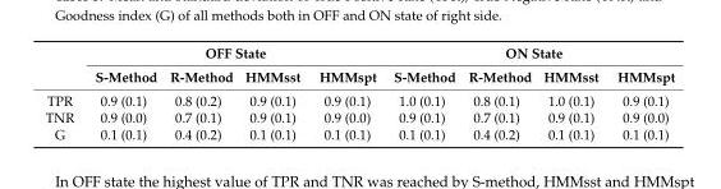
<table><thead><tr><td rowspan="2"></td><td colspan="4">OFF State</td><td colspan="4">ON State</td></tr><tr><td>S-Method</td><td>R-Method</td><td>HMMsst</td><td>HMMspt</td><td>S-Method</td><td>R-Method</td><td>HMMsst</td><td>HMMspt</td></tr></thead><tbody><tr><td>TPR</td><td>0.9 (0.1)</td><td>0.8 (0.2)</td><td>0.9 (0.1)</td><td>0.9 (0.1)</td><td>1.0 (0.1)</td><td>0.8 (0.1)</td><td>1.0 (0.1)</td><td>0.9 (0.1)</td></tr><tr><td>TNR</td><td>0.9 (0.0)</td><td>0.7 (0.1)</td><td>0.9 (0.1)</td><td>0.9 (0.0)</td><td>0.9 (0.1)</td><td>0.7 (0.1)</td><td>0.9 (0.1)</td><td>0.9 (0.0)</td></tr><tr><td>G</td><td>0.1 (0.1)</td><td>0.4 (0.2)</td><td>0.1 (0.1)</td><td>0.1 (0.1)</td><td>0.1 (0.1)</td><td>0.4 (0.2)</td><td>0.1 (0.1)</td><td>0.1 (0.1)</td></tr></tbody></table>